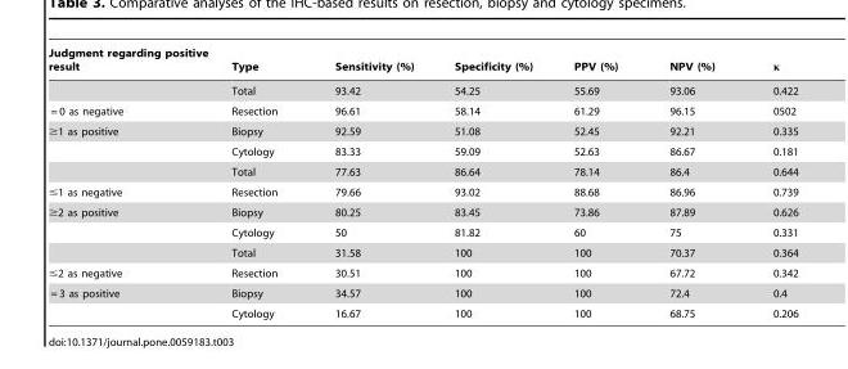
<table><thead><tr><td>Judgment regarding positive result</td><td>Type</td><td>Sensitivity (%)</td><td>Specificity (%)</td><td>PPV (%)</td><td>NPV (%)</td><td>κ</td></tr></thead><tbody><tr><td></td><td>Total</td><td>93.42</td><td>54.25</td><td>55.69</td><td>93.06</td><td>0.422</td></tr><tr><td>= 0 as negative</td><td>Resection</td><td>96.61</td><td>58.14</td><td>61.29</td><td>96.15</td><td>0502</td></tr><tr><td rowspan="3">≥1 as positive</td><td>Biopsy</td><td>92.59</td><td>51.08</td><td>52.45</td><td>92.21</td><td>0.335</td></tr><tr><td>Cytology</td><td>83.33</td><td>59.09</td><td>52.63</td><td>86.67</td><td>0.181</td></tr><tr><td>Total</td><td>77.63</td><td>86.64</td><td>78.14</td><td>86.4</td><td>0.644</td></tr><tr><td>≤1 as negative</td><td>Resection</td><td>79.66</td><td>93.02</td><td>88.68</td><td>86.96</td><td>0.739</td></tr><tr><td rowspan="3">≥2 as positive</td><td>Biopsy</td><td>80.25</td><td>83.45</td><td>73.86</td><td>87.89</td><td>0.626</td></tr><tr><td>Cytology</td><td>50</td><td>81.82</td><td>60</td><td>75</td><td>0.331</td></tr><tr><td>Total</td><td>31.58</td><td>100</td><td>100</td><td>70.37</td><td>0.364</td></tr><tr><td>≤2 as negative</td><td>Resection</td><td>30.51</td><td>100</td><td>100</td><td>67.72</td><td>0.342</td></tr><tr><td rowspan="2">= 3 as positive</td><td>Biopsy</td><td>34.57</td><td>100</td><td>100</td><td>72.4</td><td>0.4</td></tr><tr><td>Cytology</td><td>16.67</td><td>100</td><td>100</td><td>68.75</td><td>0.206</td></tr></tbody></table>